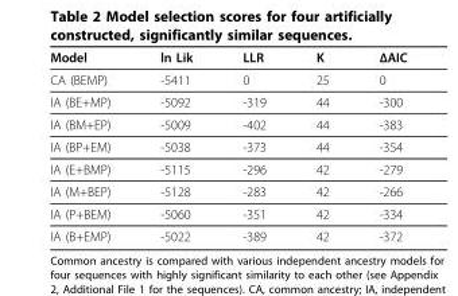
<table><thead><tr><td>Model</td><td>ln Lik</td><td>LLR</td><td>K</td><td>ΔAIC</td></tr></thead><tbody><tr><td>CA (BEMP)</td><td>-5411</td><td>0</td><td>25</td><td>0</td></tr><tr><td>IA (BE+MP)</td><td>-5092</td><td>-319</td><td>44</td><td>-300</td></tr><tr><td>IA (BM+EP)</td><td>-5009</td><td>-402</td><td>44</td><td>-383</td></tr><tr><td>IA (BP+EM)</td><td>-5038</td><td>-373</td><td>44</td><td>-354</td></tr><tr><td>IA (E+BMP)</td><td>-5115</td><td>-296</td><td>42</td><td>-279</td></tr><tr><td>IA (M+BEP)</td><td>-5128</td><td>-283</td><td>42</td><td>-266</td></tr><tr><td>IA (P+BEM)</td><td>-5060</td><td>-351</td><td>42</td><td>-334</td></tr><tr><td>IA (B+EMP)</td><td>-5022</td><td>-389</td><td>42</td><td>-372</td></tr></tbody></table>